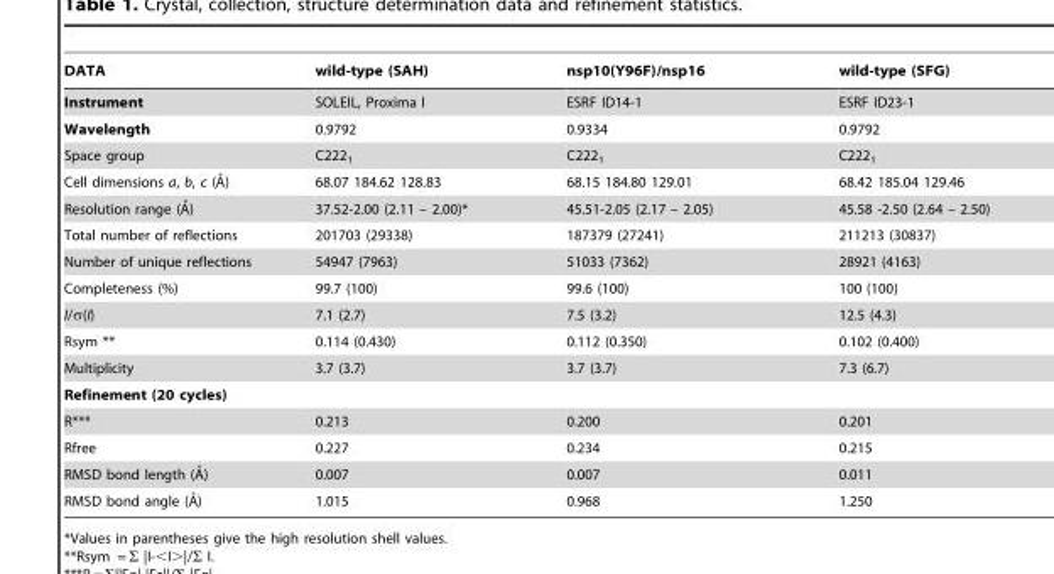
<table><thead><tr><td>DATA</td><td>wild-type (SAH)</td><td>nsp10(Y96F)/nsp16</td><td>wild-type (SFG)</td></tr></thead><tbody><tr><td>Instrument</td><td>SOLEIL, Proxima I</td><td>ESRF ID14-1</td><td>ESRF ID23-1</td></tr><tr><td>Wavelength</td><td>0.9792</td><td>0.9334</td><td>0.9792</td></tr><tr><td>Space group</td><td>C222<sub>1</sub></td><td>C222<sub>1</sub></td><td>C222<sub>1</sub></td></tr><tr><td>Cell dimensions a, b, c (A˚)</td><td>68.07 184.62 128.83</td><td>68.15 184.80 129.01</td><td>68.42 185.04 129.46</td></tr><tr><td>Resolution range (A˚)</td><td>37.52-2.00 (2.11 – 2.00)*</td><td>45.51-2.05 (2.17 – 2.05)</td><td>45.58 -2.50 (2.64 – 2.50)</td></tr><tr><td>Total number of reflections</td><td>201703 (29338)</td><td>187379 (27241)</td><td>211213 (30837)</td></tr><tr><td>Number of unique reflections</td><td>54947 (7963)</td><td>51033 (7362)</td><td>28921 (4163)</td></tr><tr><td>Completeness (%)</td><td>99.7 (100)</td><td>99.6 (100)</td><td>100 (100)</td></tr><tr><td>I/σ(I)</td><td>7.1 (2.7)</td><td>7.5 (3.2)</td><td>12.5 (4.3)</td></tr><tr><td>Rsym **</td><td>0.114 (0.430)</td><td>0.112 (0.350)</td><td>0.102 (0.400)</td></tr><tr><td>Multiplicity</td><td>3.7 (3.7)</td><td>3.7 (3.7)</td><td>7.3 (6.7)</td></tr><tr><td colspan="4">Refinement (20 cycles)</td></tr><tr><td>R***</td><td>0.213</td><td>0.200</td><td>0.201</td></tr><tr><td>Rfree</td><td>0.227</td><td>0.234</td><td>0.215</td></tr><tr><td>RMSD bond length (A˚)</td><td>0.007</td><td>0.007</td><td>0.011</td></tr><tr><td>RMSD bond angle (A˚)</td><td>1.015</td><td>0.968</td><td>1.250</td></tr></tbody></table>